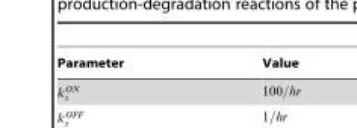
<table><thead><tr><td>Parameter</td><td>Value</td></tr></thead><tbody></tbody></table>